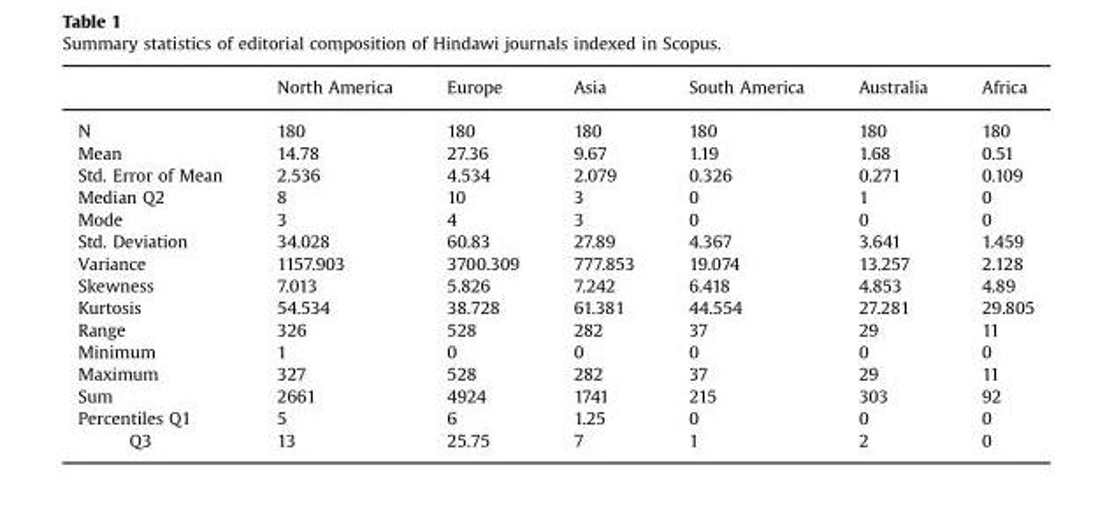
<table><thead><tr><td></td><td>North America</td><td>Europe</td><td>Asia</td><td>South America</td><td>Australia</td><td>Africa</td></tr></thead><tbody><tr><td>N</td><td>180</td><td>180</td><td>180</td><td>180</td><td>180</td><td>180</td></tr><tr><td>Mean</td><td>14.78</td><td>27.36</td><td>9.67</td><td>1.19</td><td>1.68</td><td>0.51</td></tr><tr><td>Std. Error of Mean</td><td>2.536</td><td>4.534</td><td>2.079</td><td>0.326</td><td>0.271</td><td>0.109</td></tr><tr><td>Median Q2</td><td>8</td><td>10</td><td>3</td><td>0</td><td>1</td><td>0</td></tr><tr><td>Mode</td><td>3</td><td>4</td><td>3</td><td>0</td><td>0</td><td>0</td></tr><tr><td>Std. Deviation</td><td>34.028</td><td>60.83</td><td>27.89</td><td>4.367</td><td>3.641</td><td>1.459</td></tr><tr><td>Variance</td><td>1157.903</td><td>3700.309</td><td>777.853</td><td>19.074</td><td>13.257</td><td>2.128</td></tr><tr><td>Skewness</td><td>7.013</td><td>5.826</td><td>7.242</td><td>6.418</td><td>4.853</td><td>4.89</td></tr><tr><td>Kurtosis</td><td>54.534</td><td>38.728</td><td>61.381</td><td>44.554</td><td>27.281</td><td>29.805</td></tr><tr><td>Range</td><td>326</td><td>528</td><td>282</td><td>37</td><td>29</td><td>11</td></tr><tr><td>Minimum</td><td>1</td><td>0</td><td>0</td><td>0</td><td>0</td><td>0</td></tr><tr><td>Maximum</td><td>327</td><td>528</td><td>282</td><td>37</td><td>29</td><td>11</td></tr><tr><td>Sum</td><td>2661</td><td>4924</td><td>1741</td><td>215</td><td>303</td><td>92</td></tr><tr><td>Percentiles Q1</td><td>5</td><td>6</td><td>1.25</td><td>0</td><td>0</td><td>0</td></tr><tr><td>Q3</td><td>13</td><td>25.75</td><td>7</td><td>1</td><td>2</td><td>0</td></tr></tbody></table>